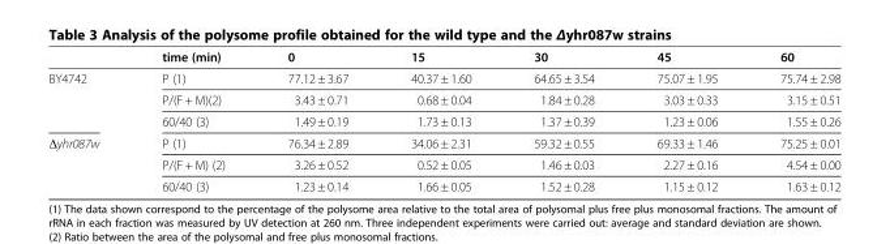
<table><thead><tr><td></td><td>time (min)</td><td>0</td><td>15</td><td>30</td><td>45</td><td>60</td></tr></thead><tbody><tr><td rowspan="3">BY4742</td><td>P (1)</td><td>77.12 ± 3.67</td><td>40.37 ± 1.60</td><td>64.65 ± 3.54</td><td>75.07 ± 1.95</td><td>75.74 ± 2.98</td></tr><tr><td>P/(F + M)(2)</td><td>3.43 ± 0.71</td><td>0.68 ± 0.04</td><td>1.84 ± 0.28</td><td>3.03 ± 0.33</td><td>3.15 ± 0.51</td></tr><tr><td>60/40 (3)</td><td>1.49 ± 0.19</td><td>1.73 ± 0.13</td><td>1.37 ± 0.39</td><td>1.23 ± 0.06</td><td>1.55 ± 0.26</td></tr><tr><td rowspan="3">Δyhr087w</td><td>P (1)</td><td>76.34 ± 2.89</td><td>34.06 ± 2.31</td><td>59.32 ± 0.55</td><td>69.33 ± 1.46</td><td>75.25 ± 0.01</td></tr><tr><td>P/(F + M) (2)</td><td>3.26 ± 0.52</td><td>0.52 ± 0.05</td><td>1.46 ± 0.03</td><td>2.27 ± 0.16</td><td>4.54 ± 0.00</td></tr><tr><td>60/40 (3)</td><td>1.23 ± 0.14</td><td>1.66 ± 0.05</td><td>1.52 ± 0.28</td><td>1.15 ± 0.12</td><td>1.63 ± 0.12</td></tr></tbody></table>